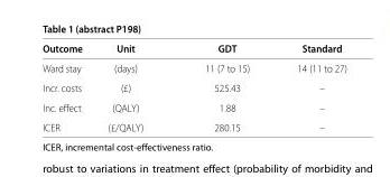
<table><thead><tr><td>Outcome</td><td>Unit</td><td>GDT</td><td>Standard</td></tr></thead><tbody><tr><td>Ward stay</td><td>(days)</td><td>11 (7 to 15)</td><td>14 (11 to 27)</td></tr><tr><td>Incr. costs</td><td>(£)</td><td>525.43</td><td>–</td></tr><tr><td>Inc. eff ect</td><td>(QALY)</td><td>1.88</td><td>–</td></tr><tr><td>ICER</td><td>(£/QALY)</td><td>280.15</td><td>–</td></tr></tbody></table>